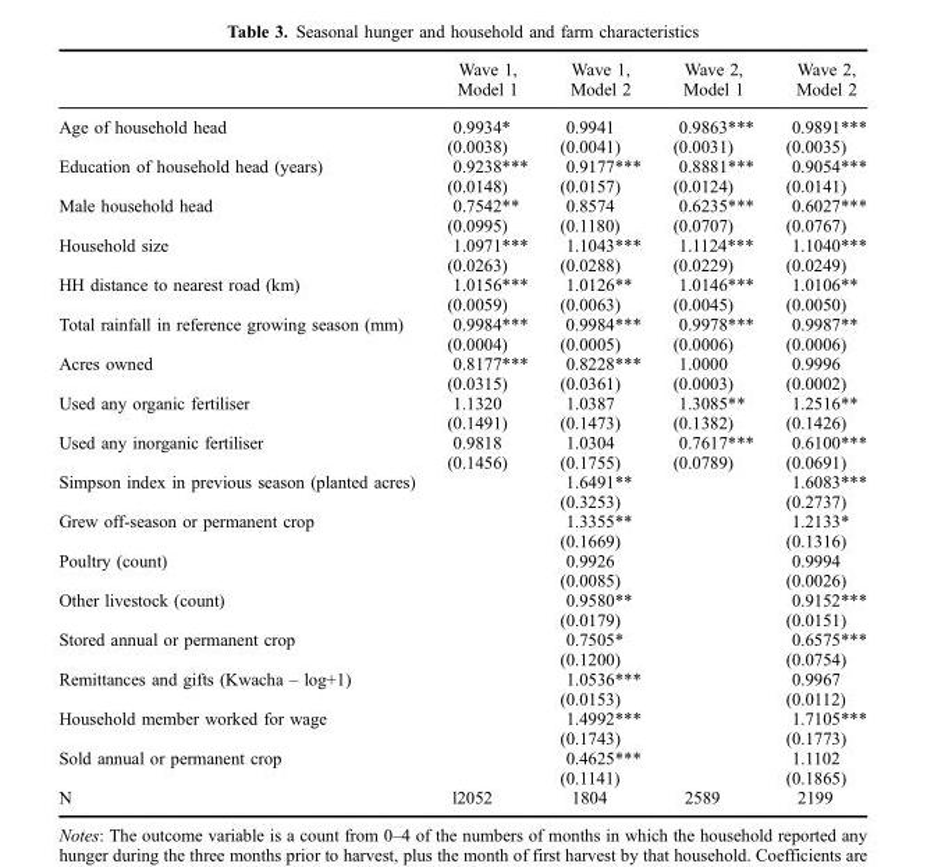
<table><thead><tr><td></td><td>Wave 1, Model 1</td><td>Wave 1, Model 2</td><td>Wave 2, Model 1</td><td>Wave 2, Model 2</td></tr></thead><tbody><tr><td rowspan="2">Age of household head</td><td>0.9934*</td><td>0.9941</td><td>0.9863***</td><td>0.9891***</td></tr><tr><td>(0.0038)</td><td>(0.0041)</td><td>(0.0031)</td><td>(0.0035)</td></tr><tr><td rowspan="2">Education of household head (years)</td><td>0.9238***</td><td>0.9177***</td><td>0.8881***</td><td>0.9054***</td></tr><tr><td>(0.0148)</td><td>(0.0157)</td><td>(0.0124)</td><td>(0.0141)</td></tr><tr><td rowspan="2">Male household head</td><td>0.7542**</td><td>0.8574</td><td>0.6235***</td><td>0.6027***</td></tr><tr><td>(0.0995)</td><td>(0.1180)</td><td>(0.0707)</td><td>(0.0767)</td></tr><tr><td rowspan="2">Household size</td><td>1.0971***</td><td>1.1043***</td><td>1.1124***</td><td>1.1040***</td></tr><tr><td>(0.0263)</td><td>(0.0288)</td><td>(0.0229)</td><td>(0.0249)</td></tr><tr><td rowspan="2">HH distance to nearest road (km)</td><td>1.0156***</td><td>1.0126**</td><td>1.0146***</td><td>1.0106**</td></tr><tr><td>(0.0059)</td><td>(0.0063)</td><td>(0.0045)</td><td>(0.0050)</td></tr><tr><td rowspan="2">Total rainfall in reference growing season (mm)</td><td>0.9984***</td><td>0.9984***</td><td>0.9978***</td><td>0.9987**</td></tr><tr><td>(0.0004)</td><td>(0.0005)</td><td>(0.0006)</td><td>(0.0006)</td></tr><tr><td rowspan="2">Acres owned</td><td>0.8177***</td><td>0.8228***</td><td>1.0000</td><td>0.9996</td></tr><tr><td>(0.0315)</td><td>(0.0361)</td><td>(0.0003)</td><td>(0.0002)</td></tr><tr><td rowspan="2">Used any organic fertiliser</td><td>1.1320</td><td>1.0387</td><td>1.3085**</td><td>1.2516**</td></tr><tr><td>(0.1491)</td><td>(0.1473)</td><td>(0.1382)</td><td>(0.1426)</td></tr><tr><td rowspan="2">Used any inorganic fertiliser</td><td>0.9818</td><td>1.0304</td><td>0.7617***</td><td>0.6100***</td></tr><tr><td>(0.1456)</td><td>(0.1755)</td><td>(0.0789)</td><td>(0.0691)</td></tr><tr><td rowspan="2">Simpson index in previous season (planted acres)</td><td></td><td>1.6491**</td><td></td><td>1.6083***</td></tr><tr><td></td><td>(0.3253)</td><td></td><td>(0.2737)</td></tr><tr><td rowspan="2">Grew off-season or permanent crop</td><td></td><td>1.3355**</td><td></td><td>1.2133*</td></tr><tr><td></td><td>(0.1669)</td><td></td><td>(0.1316)</td></tr><tr><td rowspan="2">Poultry (count)</td><td></td><td>0.9926</td><td></td><td>0.9994</td></tr><tr><td></td><td>(0.0085)</td><td></td><td>(0.0026)</td></tr><tr><td rowspan="2">Other livestock (count)</td><td></td><td>0.9580**</td><td></td><td>0.9152***</td></tr><tr><td></td><td>(0.0179)</td><td></td><td>(0.0151)</td></tr><tr><td rowspan="2">Stored annual or permanent crop</td><td></td><td>0.7505*</td><td></td><td>0.6575***</td></tr><tr><td></td><td>(0.1200)</td><td></td><td>(0.0754)</td></tr><tr><td rowspan="2">Remittances and gifts (Kwacha – log+1)</td><td></td><td>1.0536***</td><td></td><td>0.9967</td></tr><tr><td></td><td>(0.0153)</td><td></td><td>(0.0112)</td></tr><tr><td rowspan="2">Household member worked for wage</td><td></td><td>1.4992***</td><td></td><td>1.7105***</td></tr><tr><td></td><td>(0.1743)</td><td></td><td>(0.1773)</td></tr><tr><td rowspan="2">Sold annual or permanent crop</td><td></td><td>0.4625***</td><td></td><td>1.1102</td></tr><tr><td></td><td>(0.1141)</td><td></td><td>(0.1865)</td></tr><tr><td>N</td><td>l2052</td><td>1804</td><td>2589</td><td>2199</td></tr></tbody></table>